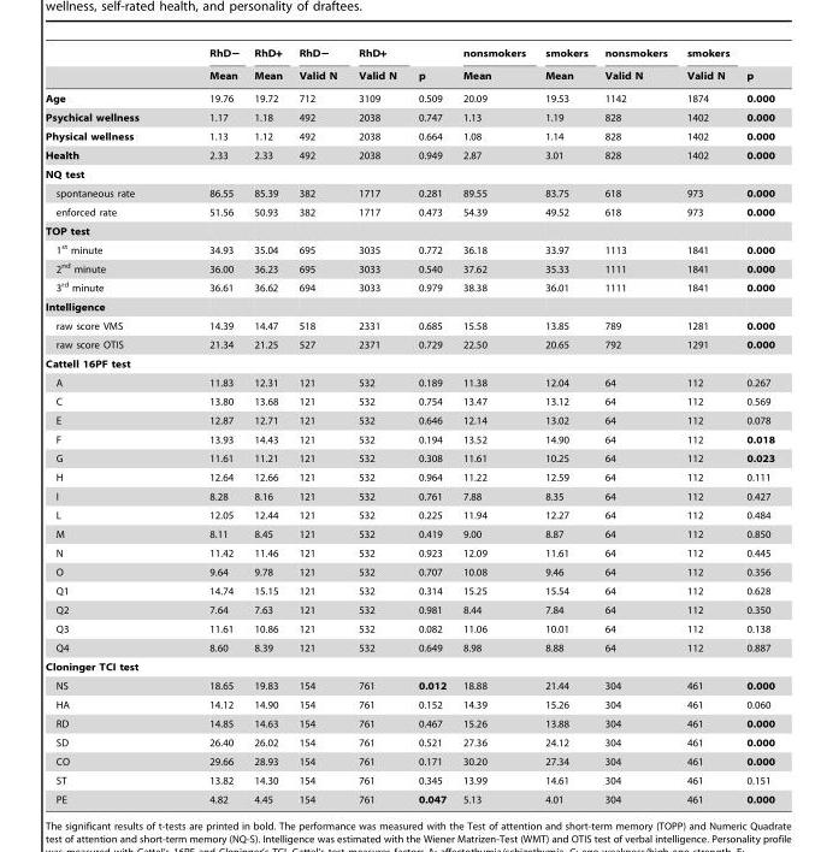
<table><thead><tr><td rowspan="2"></td><td rowspan="2">RhD− Mean</td><td rowspan="2">RhD+ Mean</td><td rowspan="2">RhD− Valid N</td><td rowspan="2">RhD+ Valid N</td><td rowspan="2">p</td><td rowspan="2">nonsmokers Mean</td><td rowspan="2">smokers Mean</td><td rowspan="2">nonsmokers Valid N</td><td rowspan="2">smokers Valid N</td><td rowspan="2">p</td></tr><tr></tr></thead><tbody><tr><td>Age</td><td>19.76</td><td>19.72</td><td>712</td><td>3109</td><td>0.509</td><td>20.09</td><td>19.53</td><td>1142</td><td>1874</td><td>0.000</td></tr><tr><td>Psychical wellness</td><td>1.17</td><td>1.18</td><td>492</td><td>2038</td><td>0.747</td><td>1.13</td><td>1.19</td><td>828</td><td>1402</td><td>0.000</td></tr><tr><td>Physical wellness</td><td>1.13</td><td>1.12</td><td>492</td><td>2038</td><td>0.664</td><td>1.08</td><td>1.14</td><td>828</td><td>1402</td><td>0.000</td></tr><tr><td>Health</td><td>2.33</td><td>2.33</td><td>492</td><td>2038</td><td>0.949</td><td>2.87</td><td>3.01</td><td>828</td><td>1402</td><td>0.000</td></tr><tr><td colspan="11">NQ test</td></tr><tr><td>spontaneous rate</td><td>86.55</td><td>85.39</td><td>382</td><td>1717</td><td>0.281</td><td>89.55</td><td>83.75</td><td>618</td><td>973</td><td>0.000</td></tr><tr><td>enforced rate</td><td>51.56</td><td>50.93</td><td>382</td><td>1717</td><td>0.473</td><td>54.39</td><td>49.52</td><td>618</td><td>973</td><td>0.000</td></tr><tr><td colspan="11">TOP test</td></tr><tr><td>1<sup>st</sup> minute</td><td>34.93</td><td>35.04</td><td>695</td><td>3035</td><td>0.772</td><td>36.18</td><td>33.97</td><td>1113</td><td>1841</td><td>0.000</td></tr><tr><td>2<sup>nd</sup> minute</td><td>36.00</td><td>36.23</td><td>695</td><td>3033</td><td>0.540</td><td>37.62</td><td>35.33</td><td>1111</td><td>1841</td><td>0.000</td></tr><tr><td>3<sup>rd</sup> minute</td><td>36.61</td><td>36.62</td><td>694</td><td>3033</td><td>0.979</td><td>38.38</td><td>36.01</td><td>1111</td><td>1841</td><td>0.000</td></tr><tr><td colspan="11">Intelligence</td></tr><tr><td>raw score VMS</td><td>14.39</td><td>14.47</td><td>518</td><td>2331</td><td>0.685</td><td>15.58</td><td>13.85</td><td>789</td><td>1281</td><td>0.000</td></tr><tr><td>raw score OTIS</td><td>21.34</td><td>21.25</td><td>527</td><td>2371</td><td>0.729</td><td>22.50</td><td>20.65</td><td>792</td><td>1291</td><td>0.000</td></tr><tr><td colspan="11">Cattell 16PF test</td></tr><tr><td>A</td><td>11.83</td><td>12.31</td><td>121</td><td>532</td><td>0.189</td><td>11.38</td><td>12.04</td><td>64</td><td>112</td><td>0.267</td></tr><tr><td>C</td><td>13.80</td><td>13.68</td><td>121</td><td>532</td><td>0.754</td><td>13.47</td><td>13.12</td><td>64</td><td>112</td><td>0.569</td></tr><tr><td>E</td><td>12.87</td><td>12.71</td><td>121</td><td>532</td><td>0.646</td><td>12.14</td><td>13.02</td><td>64</td><td>112</td><td>0.078</td></tr><tr><td>F</td><td>13.93</td><td>14.43</td><td>121</td><td>532</td><td>0.194</td><td>13.52</td><td>14.90</td><td>64</td><td>112</td><td>0.018</td></tr><tr><td>G</td><td>11.61</td><td>11.21</td><td>121</td><td>532</td><td>0.308</td><td>11.61</td><td>10.25</td><td>64</td><td>112</td><td>0.023</td></tr><tr><td>H</td><td>12.64</td><td>12.66</td><td>121</td><td>532</td><td>0.964</td><td>11.22</td><td>12.59</td><td>64</td><td>112</td><td>0.111</td></tr><tr><td>I</td><td>8.28</td><td>8.16</td><td>121</td><td>532</td><td>0.761</td><td>7.88</td><td>8.35</td><td>64</td><td>112</td><td>0.427</td></tr><tr><td>L</td><td>12.05</td><td>12.44</td><td>121</td><td>532</td><td>0.225</td><td>11.94</td><td>12.27</td><td>64</td><td>112</td><td>0.484</td></tr><tr><td>M</td><td>8.11</td><td>8.45</td><td>121</td><td>532</td><td>0.419</td><td>9.00</td><td>8.87</td><td>64</td><td>112</td><td>0.850</td></tr><tr><td>N</td><td>11.42</td><td>11.46</td><td>121</td><td>532</td><td>0.923</td><td>12.09</td><td>11.61</td><td>64</td><td>112</td><td>0.445</td></tr><tr><td>O</td><td>9.64</td><td>9.78</td><td>121</td><td>532</td><td>0.707</td><td>10.08</td><td>9.46</td><td>64</td><td>112</td><td>0.356</td></tr><tr><td>Q1</td><td>14.74</td><td>15.15</td><td>121</td><td>532</td><td>0.314</td><td>15.25</td><td>15.54</td><td>64</td><td>112</td><td>0.628</td></tr><tr><td>Q2</td><td>7.64</td><td>7.63</td><td>121</td><td>532</td><td>0.981</td><td>8.44</td><td>7.84</td><td>64</td><td>112</td><td>0.350</td></tr><tr><td>Q3</td><td>11.61</td><td>10.86</td><td>121</td><td>532</td><td>0.082</td><td>11.06</td><td>10.01</td><td>64</td><td>112</td><td>0.138</td></tr><tr><td>Q4</td><td>8.60</td><td>8.39</td><td>121</td><td>532</td><td>0.649</td><td>8.98</td><td>8.88</td><td>64</td><td>112</td><td>0.887</td></tr><tr><td colspan="11">Cloninger TCI test</td></tr><tr><td>NS</td><td>18.65</td><td>19.83</td><td>154</td><td>761</td><td>0.012</td><td>18.88</td><td>21.44</td><td>304</td><td>461</td><td>0.000</td></tr><tr><td>HA</td><td>14.12</td><td>14.90</td><td>154</td><td>761</td><td>0.152</td><td>14.39</td><td>15.26</td><td>304</td><td>461</td><td>0.060</td></tr><tr><td>RD</td><td>14.85</td><td>14.63</td><td>154</td><td>761</td><td>0.467</td><td>15.26</td><td>13.88</td><td>304</td><td>461</td><td>0.000</td></tr><tr><td>SD</td><td>26.40</td><td>26.02</td><td>154</td><td>761</td><td>0.521</td><td>27.36</td><td>24.12</td><td>304</td><td>461</td><td>0.000</td></tr><tr><td>CO</td><td>29.66</td><td>28.93</td><td>154</td><td>761</td><td>0.171</td><td>30.20</td><td>27.34</td><td>304</td><td>461</td><td>0.000</td></tr><tr><td>ST</td><td>13.82</td><td>14.30</td><td>154</td><td>761</td><td>0.345</td><td>13.99</td><td>14.61</td><td>304</td><td>461</td><td>0.151</td></tr><tr><td>PE</td><td>4.82</td><td>4.45</td><td>154</td><td>761</td><td>0.047</td><td>5.13</td><td>4.01</td><td>304</td><td>461</td><td>0.000</td></tr></tbody></table>